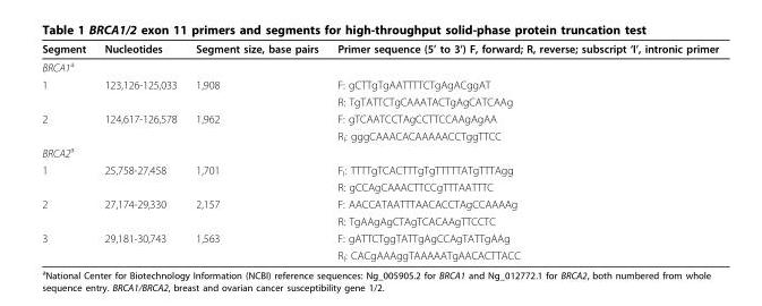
<table><thead><tr><td>Segment</td><td>Nucleotides</td><td>Segment size, base pairs</td><td>Primer sequence (5’ to 3’) F, forward; R, reverse; subscript ‘I’, intronic primer</td></tr></thead><tbody><tr><td colspan="4">BRCA1<sup>a</sup></td></tr><tr><td rowspan="2">1</td><td>123,126-125,033</td><td>1,908</td><td>F: gCTTgTgAATTTTCTgAgACggAT</td></tr><tr><td></td><td></td><td>R: TgTATTCTgCAAATACTgAgCATCAAg</td></tr><tr><td rowspan="2">2</td><td>124,617-126,578</td><td>1,962</td><td>F: gTCAATCCTAgCCTTCCAAgAgAA</td></tr><tr><td></td><td></td><td>R<sub>I</sub>: gggCAAACACAAAAACCTggTTCC</td></tr><tr><td colspan="4">BRCA2<sup>a</sup></td></tr><tr><td rowspan="2">1</td><td>25,758-27,458</td><td>1,701</td><td>F<sub>I</sub>: TTTTgTCACTTTgTgTTTTTATgTTTAgg</td></tr><tr><td></td><td></td><td>R: gCCAgCAAACTTCCgTTTAATTTC</td></tr><tr><td rowspan="2">2</td><td>27,174-29,330</td><td>2,157</td><td>F: AACCATAATTTAACACCTAgCCAAAAg</td></tr><tr><td></td><td></td><td>R: TgAAgAgCTAgTCACAAgTTCCTC</td></tr><tr><td rowspan="2">3</td><td>29,181-30,743</td><td>1,563</td><td>F: gATTCTggTATTgAgCCAgTATTgAAg</td></tr><tr><td></td><td></td><td>R<sub>I</sub>: CACgAAAggTAAAAATgAACACTTACC</td></tr></tbody></table>